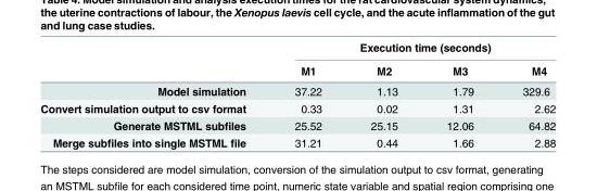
<table><thead><tr><td rowspan="2"></td><td colspan="4">Execution time (seconds)</td></tr><tr><td>M1</td><td>M2</td><td>M3</td><td>M4</td></tr></thead><tbody><tr><td>Model simulation</td><td>37.22</td><td>1.13</td><td>1.79</td><td>329.6</td></tr><tr><td>Convert simulation output to csv format</td><td>0.33</td><td>0.02</td><td>1.31</td><td>2.62</td></tr><tr><td>Generate MSTML subfiles</td><td>25.52</td><td>25.15</td><td>12.06</td><td>64.82</td></tr><tr><td>Merge subfiles into single MSTML file</td><td>31.21</td><td>0.44</td><td>1.66</td><td>2.88</td></tr></tbody></table>